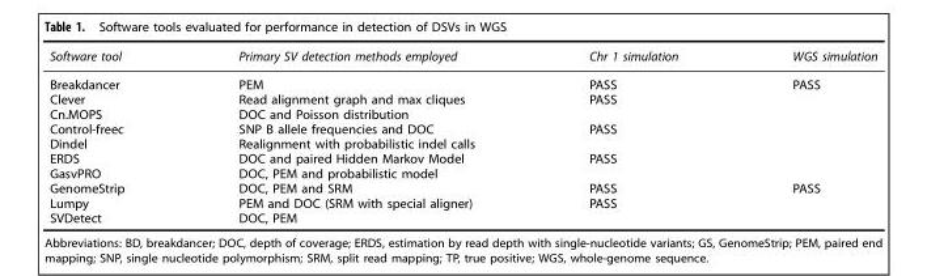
<table><thead><tr><td>Software tool</td><td>Primary SV detection methods employed</td><td>Chr 1 simulation</td><td>WGS simulation</td></tr></thead><tbody><tr><td>Breakdancer</td><td>PEM</td><td>PASS</td><td>PASS</td></tr><tr><td>Clever</td><td>Read alignment graph and max cliques</td><td>PASS</td><td></td></tr><tr><td>Cn.MOPS</td><td>DOC and Poisson distribution</td><td></td><td></td></tr><tr><td>Control-freec</td><td>SNP B allele frequencies and DOC</td><td>PASS</td><td></td></tr><tr><td>Dindel</td><td>Realignment with probabilistic indel calls</td><td></td><td></td></tr><tr><td>ERDS</td><td>DOC and paired Hidden Markov Model</td><td>PASS</td><td></td></tr><tr><td>GasvPRO</td><td>DOC, PEM and probabilistic model</td><td></td><td></td></tr><tr><td>GenomeStrip</td><td>DOC, PEM and SRM</td><td>PASS</td><td>PASS</td></tr><tr><td>Lumpy</td><td>PEM and DOC (SRM with special aligner)</td><td>PASS</td><td></td></tr><tr><td>SVDetect</td><td>DOC, PEM</td><td></td><td></td></tr></tbody></table>